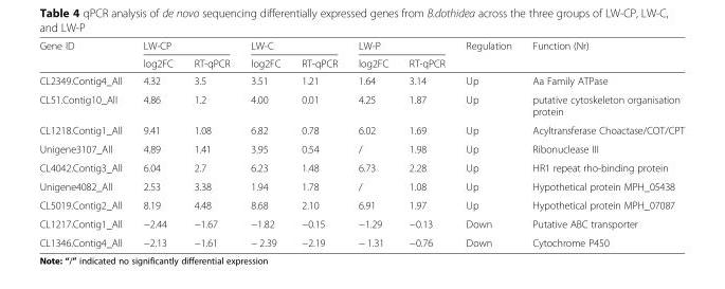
<table><thead><tr><td rowspan="2">Gene ID</td><td colspan="2">LW-CP</td><td colspan="2">LW-C</td><td colspan="2">LW-P</td><td rowspan="2">Regulation</td><td rowspan="2">Function (Nr)</td></tr><tr><td>log2FC</td><td>RT-qPCR</td><td>log2FC</td><td>RT-qPCR</td><td>log2FC</td><td>RT-qPCR</td></tr></thead><tbody><tr><td>CL2349.Contig4_All</td><td>4.32</td><td>3.5</td><td>3.51</td><td>1.21</td><td>1.64</td><td>3.14</td><td>Up</td><td>Aa Family ATPase</td></tr><tr><td>CL51.Contig10_All</td><td>4.86</td><td>1.2</td><td>4.00</td><td>0.01</td><td>4.25</td><td>1.87</td><td>Up</td><td>putative cytoskeleton organisation protein</td></tr><tr><td>CL1218.Contig1_All</td><td>9.41</td><td>1.08</td><td>6.82</td><td>0.78</td><td>6.02</td><td>1.69</td><td>Up</td><td>Acyltransferase Choactase/COT/CPT</td></tr><tr><td>Unigene3107_All</td><td>4.89</td><td>1.41</td><td>3.95</td><td>0.54</td><td>/</td><td>1.98</td><td>Up</td><td>Ribonuclease III</td></tr><tr><td>CL4042.Contig3_All</td><td>6.04</td><td>2.7</td><td>6.23</td><td>1.48</td><td>6.73</td><td>2.28</td><td>Up</td><td>HR1 repeat rho-binding protein</td></tr><tr><td>Unigene4082_All</td><td>2.53</td><td>3.38</td><td>1.94</td><td>1.78</td><td>/</td><td>1.08</td><td>Up</td><td>Hypothetical protein MPH_05438</td></tr><tr><td>CL5019.Contig2_All</td><td>8.19</td><td>4.48</td><td>8.68</td><td>2.10</td><td>6.91</td><td>1.97</td><td>Up</td><td>Hypothetical protein MPH_07087</td></tr><tr><td>CL1217.Contig1_All</td><td>−2.44</td><td>−1.67</td><td>−1.82</td><td>−0.15</td><td>−1.29</td><td>−0.13</td><td>Down</td><td>Putative ABC transporter</td></tr><tr><td>CL1346.Contig4_All</td><td>−2.13</td><td>−1.61</td><td>− 2.39</td><td>−2.19</td><td>− 1.31</td><td>−0.76</td><td>Down</td><td>Cytochrome P450</td></tr></tbody></table>